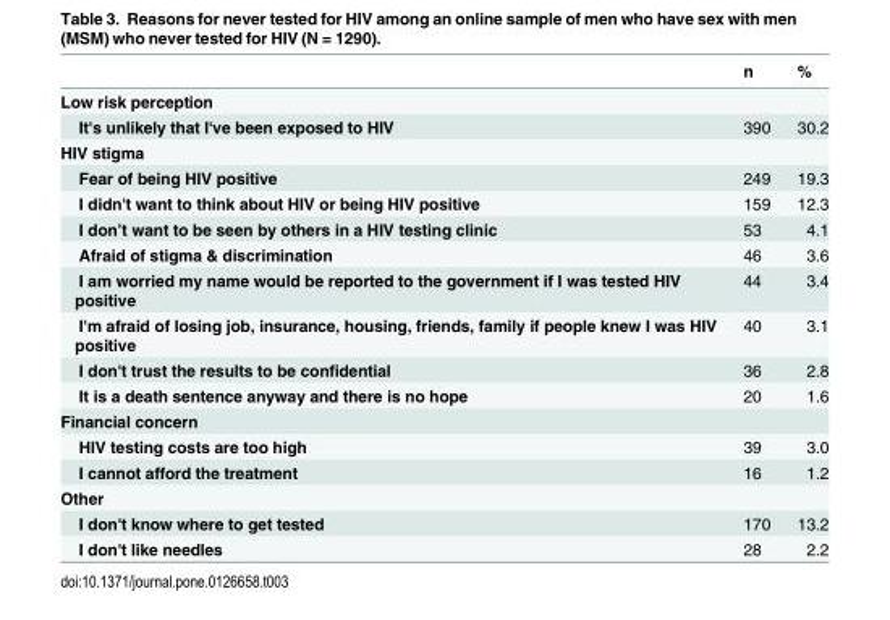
<table><thead><tr><td></td><td>n</td><td>%</td></tr></thead><tbody><tr><td colspan="3">Low risk perception</td></tr><tr><td>It&#x27;s unlikely that I&#x27;ve been exposed to HIV</td><td>390</td><td>30.2</td></tr><tr><td colspan="3">HIV stigma</td></tr><tr><td>Fear of being HIV positive</td><td>249</td><td>19.3</td></tr><tr><td>I didn&#x27;t want to think about HIV or being HIV positive</td><td>159</td><td>12.3</td></tr><tr><td>I don’t want to be seen by others in a HIV testing clinic</td><td>53</td><td>4.1</td></tr><tr><td>Afraid of stigma &amp; discrimination</td><td>46</td><td>3.6</td></tr><tr><td>I am worried my name would be reported to the government if I was tested HIV positive</td><td>44</td><td>3.4</td></tr><tr><td>I&#x27;m afraid of losing job, insurance, housing, friends, family if people knew I was HIV positive</td><td>40</td><td>3.1</td></tr><tr><td>I don&#x27;t trust the results to be confidential</td><td>36</td><td>2.8</td></tr><tr><td>It is a death sentence anyway and there is no hope</td><td>20</td><td>1.6</td></tr><tr><td colspan="3">Financial concern</td></tr><tr><td>HIV testing costs are too high</td><td>39</td><td>3.0</td></tr><tr><td>I cannot afford the treatment</td><td>16</td><td>1.2</td></tr><tr><td colspan="3">Other</td></tr><tr><td>I don&#x27;t know where to get tested</td><td>170</td><td>13.2</td></tr><tr><td>I don&#x27;t like needles</td><td>28</td><td>2.2</td></tr></tbody></table>